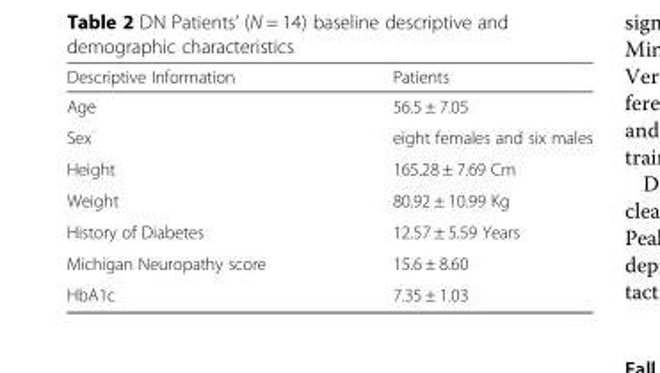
<table><thead><tr><td>Descriptive Information</td><td>Patients</td></tr></thead><tbody><tr><td>Age</td><td>56.5 ± 7.05</td></tr><tr><td>Sex</td><td>eight females and six males</td></tr><tr><td>Height</td><td>165.28 ± 7.69 Cm</td></tr><tr><td>Weight</td><td>80.92 ± 10.99 Kg</td></tr><tr><td>History of Diabetes</td><td>12.57 ± 5.59 Years</td></tr><tr><td>Michigan Neuropathy score</td><td>15.6 ± 8.60</td></tr><tr><td>HbA1c</td><td>7.35 ± 1.03</td></tr></tbody></table>